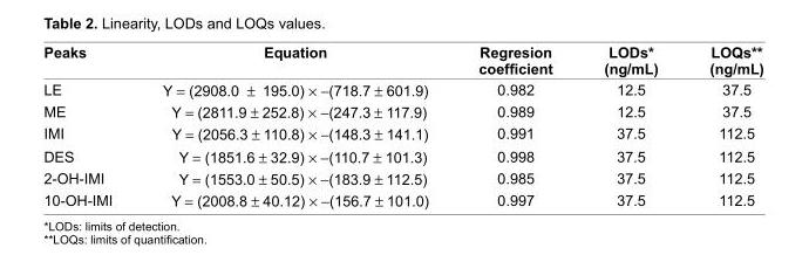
<table><thead><tr><td>Peaks</td><td>Equation</td><td>Regresion coeffi cient</td><td>LODs* (ng/mL)</td><td>LOQs** (ng/mL)</td></tr></thead><tbody><tr><td>LE</td><td>Y = (2908.0 ± 195.0) × −(718.7 ± 601.9)</td><td>0.982</td><td>12.5</td><td>37.5</td></tr><tr><td>ME</td><td>Y = (2811.9 ± 252.8) × −(247.3 ± 117.9)</td><td>0.989</td><td>12.5</td><td>37.5</td></tr><tr><td>IMI</td><td>Y = (2056.3 ± 110.8) × −(148.3 ± 141.1)</td><td>0.991</td><td>37.5</td><td>112.5</td></tr><tr><td>DES</td><td>Y = (1851.6 ± 32.9) × −(110.7 ± 101.3)</td><td>0.998</td><td>37.5</td><td>112.5</td></tr><tr><td>2-OH-IMI</td><td>Y = (1553.0 ± 50.5) × −(183.9 ± 112.5)</td><td>0.985</td><td>37.5</td><td>112.5</td></tr><tr><td>10-OH-IMI</td><td>Y = (2008.8 ± 40.12) × −(156.7 ± 101.0)</td><td>0.997</td><td>37.5</td><td>112.5</td></tr></tbody></table>